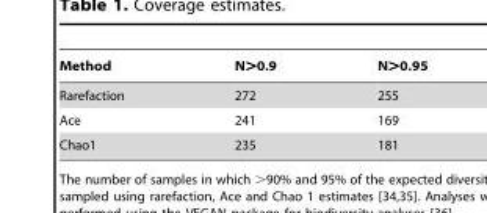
<table><thead><tr><td>Method</td><td>N&gt;0.9</td><td>N&gt;0.95</td></tr></thead><tbody><tr><td>Rarefaction</td><td>272</td><td>255</td></tr><tr><td>Ace</td><td>241</td><td>169</td></tr><tr><td>Chao1</td><td>235</td><td>181</td></tr></tbody></table>